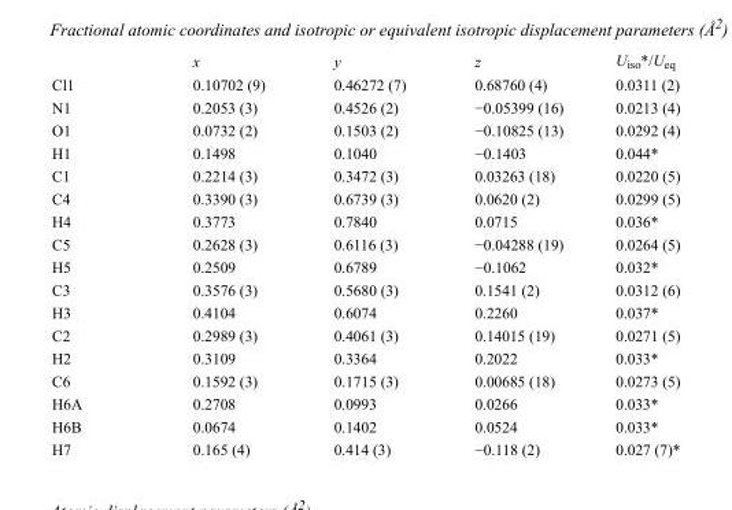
<table><thead><tr><td></td><td>x</td><td>y</td><td>z</td><td>U<sub>iso</sub>*/U<sub>eq</sub></td></tr></thead><tbody><tr><td>Cl1</td><td>0.10702 (9)</td><td>0.46272 (7)</td><td>0.68760 (4)</td><td>0.0311 (2)</td></tr><tr><td>N1</td><td>0.2053 (3)</td><td>0.4526 (2)</td><td>−0.05399 (16)</td><td>0.0213 (4)</td></tr><tr><td>O1</td><td>0.0732 (2)</td><td>0.1503 (2)</td><td>−0.10825 (13)</td><td>0.0292 (4)</td></tr><tr><td>H1</td><td>0.1498</td><td>0.1040</td><td>−0.1403</td><td>0.044*</td></tr><tr><td>C1</td><td>0.2214 (3)</td><td>0.3472 (3)</td><td>0.03263 (18)</td><td>0.0220 (5)</td></tr><tr><td>C4</td><td>0.3390 (3)</td><td>0.6739 (3)</td><td>0.0620 (2)</td><td>0.0299 (5)</td></tr><tr><td>H4</td><td>0.3773</td><td>0.7840</td><td>0.0715</td><td>0.036*</td></tr><tr><td>C5</td><td>0.2628 (3)</td><td>0.6116 (3)</td><td>−0.04288 (19)</td><td>0.0264 (5)</td></tr><tr><td>H5</td><td>0.2509</td><td>0.6789</td><td>−0.1062</td><td>0.032*</td></tr><tr><td>C3</td><td>0.3576 (3)</td><td>0.5680 (3)</td><td>0.1541 (2)</td><td>0.0312 (6)</td></tr><tr><td>H3</td><td>0.4104</td><td>0.6074</td><td>0.2260</td><td>0.037*</td></tr><tr><td>C2</td><td>0.2989 (3)</td><td>0.4061 (3)</td><td>0.14015 (19)</td><td>0.0271 (5)</td></tr><tr><td>H2</td><td>0.3109</td><td>0.3364</td><td>0.2022</td><td>0.033*</td></tr><tr><td>C6</td><td>0.1592 (3)</td><td>0.1715 (3)</td><td>0.00685 (18)</td><td>0.0273 (5)</td></tr><tr><td>H6A</td><td>0.2708</td><td>0.0993</td><td>0.0266</td><td>0.033*</td></tr><tr><td>H6B</td><td>0.0674</td><td>0.1402</td><td>0.0524</td><td>0.033*</td></tr><tr><td>H7</td><td>0.165 (4)</td><td>0.414 (3)</td><td>−0.118 (2)</td><td>0.027 (7)*</td></tr></tbody></table>